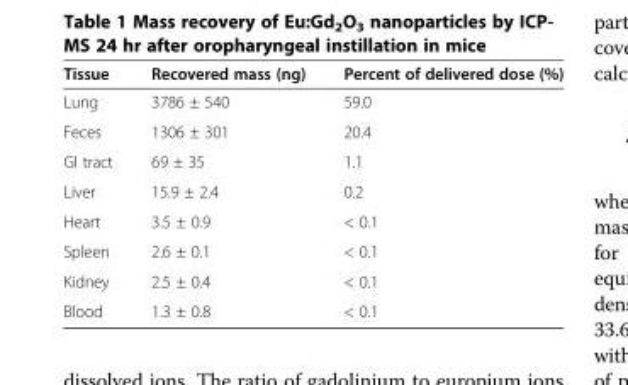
<table><thead><tr><td>Tissue</td><td>Recovered mass (ng)</td><td>Percent of delivered dose (%)</td></tr></thead><tbody><tr><td>Lung</td><td>3786 ± 540</td><td>59.0</td></tr><tr><td>Feces</td><td>1306 ± 301</td><td>20.4</td></tr><tr><td>GI tract</td><td>69 ± 35</td><td>1.1</td></tr><tr><td>Liver</td><td>15.9 ± 2.4</td><td>0.2</td></tr><tr><td>Heart</td><td>3.5 ± 0.9</td><td>&lt; 0.1</td></tr><tr><td>Spleen</td><td>2.6 ± 0.1</td><td>&lt; 0.1</td></tr><tr><td>Kidney</td><td>2.5 ± 0.4</td><td>&lt; 0.1</td></tr><tr><td>Blood</td><td>1.3 ± 0.8</td><td>&lt; 0.1</td></tr></tbody></table>